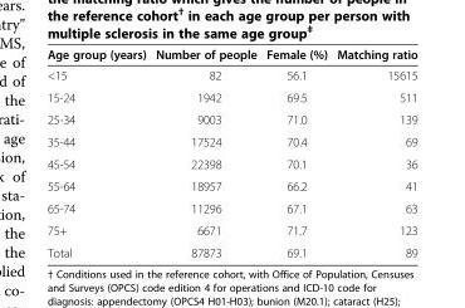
<table><thead><tr><td>Age group (years)</td><td>Number of people</td><td>Female (%)</td><td>Matching ratio</td></tr></thead><tbody><tr><td>&lt;15</td><td>82</td><td>56.1</td><td>15615</td></tr><tr><td>15-24</td><td>1942</td><td>69.5</td><td>511</td></tr><tr><td>25-34</td><td>9003</td><td>71.0</td><td>139</td></tr><tr><td>35-44</td><td>17524</td><td>70.4</td><td>69</td></tr><tr><td>45-54</td><td>22398</td><td>70.1</td><td>36</td></tr><tr><td>55-64</td><td>18957</td><td>66.2</td><td>41</td></tr><tr><td>65-74</td><td>11296</td><td>67.1</td><td>63</td></tr><tr><td>75+</td><td>6671</td><td>71.7</td><td>123</td></tr><tr><td>Total</td><td>87873</td><td>69.1</td><td>89</td></tr></tbody></table>